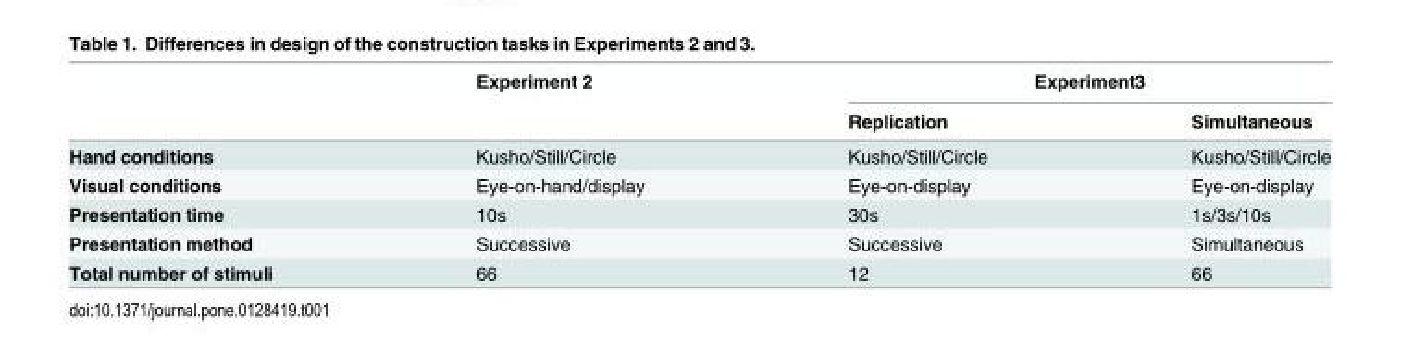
<table><thead><tr><td rowspan="2"></td><td rowspan="2">Experiment 2</td><td colspan="2">Experiment3</td></tr><tr><td>Replication</td><td>Simultaneous</td></tr></thead><tbody><tr><td>Hand conditions</td><td>Kusho/Still/Circle</td><td>Kusho/Still/Circle</td><td>Kusho/Still/Circle</td></tr><tr><td>Visual conditions</td><td>Eye-on-hand/display</td><td>Eye-on-display</td><td>Eye-on-display</td></tr><tr><td>Presentation time</td><td>10s</td><td>30s</td><td>1s/3s/10s</td></tr><tr><td>Presentation method</td><td>Successive</td><td>Successive</td><td>Simultaneous</td></tr><tr><td>Total number of stimuli</td><td>66</td><td>12</td><td>66</td></tr></tbody></table>